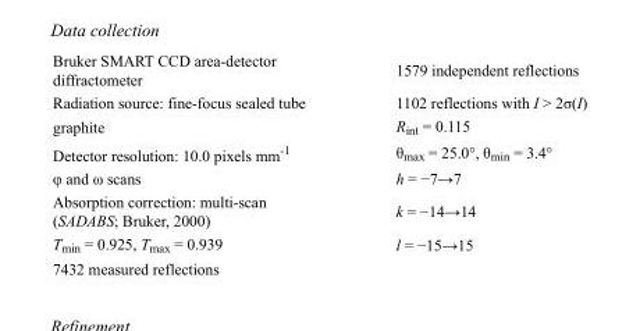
<table><tbody><tr><td>Bruker SMART CCD area-detector diffractometer</td><td>1579 independent reflections</td></tr><tr><td>Radiation source: fine-focus sealed tube</td><td>1102 reflections with I &gt; 2σ(I)</td></tr><tr><td>graphite</td><td>R<sub>int</sub> = 0.115</td></tr><tr><td>Detector resolution: 10.0 pixels mm<sup>-1</sup></td><td>θ<sub>max</sub> = 25.0°, θ<sub>min</sub> = 3.4°</td></tr><tr><td>φ and ω scans</td><td>h = −7→7</td></tr><tr><td>Absorption correction: multi-scan (SADABS; Bruker, 2000)</td><td>k = −14→14</td></tr><tr><td>T<sub>min</sub> = 0.925, T<sub>max</sub> = 0.939</td><td>l = −15→15</td></tr><tr><td>7432 measured reflections</td><td></td></tr></tbody></table>